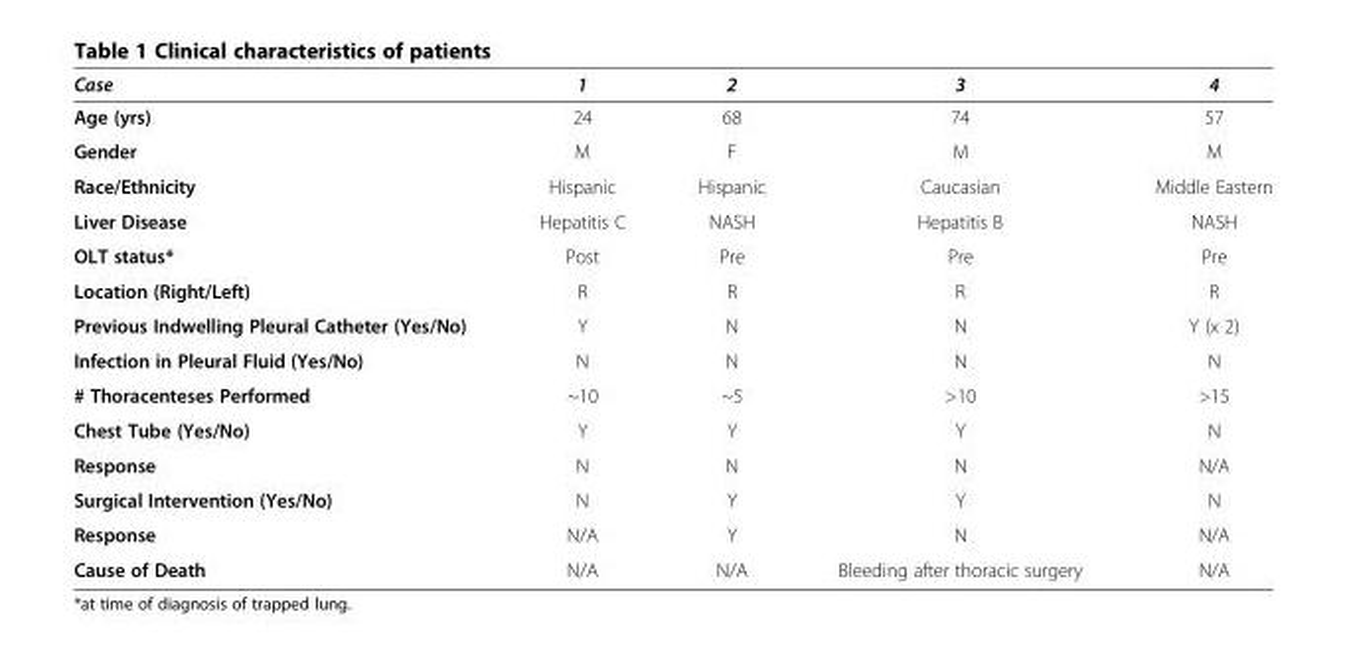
<table><thead><tr><td>Case</td><td>1</td><td>2</td><td>3</td><td>4</td></tr></thead><tbody><tr><td>Age (yrs)</td><td>24</td><td>68</td><td>74</td><td>57</td></tr><tr><td>Gender</td><td>M</td><td>F</td><td>M</td><td>M</td></tr><tr><td>Race/Ethnicity</td><td>Hispanic</td><td>Hispanic</td><td>Caucasian</td><td>Middle Eastern</td></tr><tr><td>Liver Disease</td><td>Hepatitis C</td><td>NASH</td><td>Hepatitis B</td><td>NASH</td></tr><tr><td>OLT status*</td><td>Post</td><td>Pre</td><td>Pre</td><td>Pre</td></tr><tr><td>Location (Right/Left)</td><td>R</td><td>R</td><td>R</td><td>R</td></tr><tr><td>Previous Indwelling Pleural Catheter (Yes/No)</td><td>Y</td><td>N</td><td>N</td><td>Y (x 2)</td></tr><tr><td>Infection in Pleural Fluid (Yes/No)</td><td>N</td><td>N</td><td>N</td><td>N</td></tr><tr><td># Thoracenteses Performed</td><td>~10</td><td>~5</td><td>&gt;10</td><td>&gt;15</td></tr><tr><td>Chest Tube (Yes/No)</td><td>Y</td><td>Y</td><td>Y</td><td>N</td></tr><tr><td>Response</td><td>N</td><td>N</td><td>N</td><td>N/A</td></tr><tr><td>Surgical Intervention (Yes/No)</td><td>N</td><td>Y</td><td>Y</td><td>N</td></tr><tr><td>Response</td><td>N/A</td><td>Y</td><td>N</td><td>N/A</td></tr><tr><td>Cause of Death</td><td>N/A</td><td>N/A</td><td>Bleeding after thoracic surgery</td><td>N/A</td></tr></tbody></table>